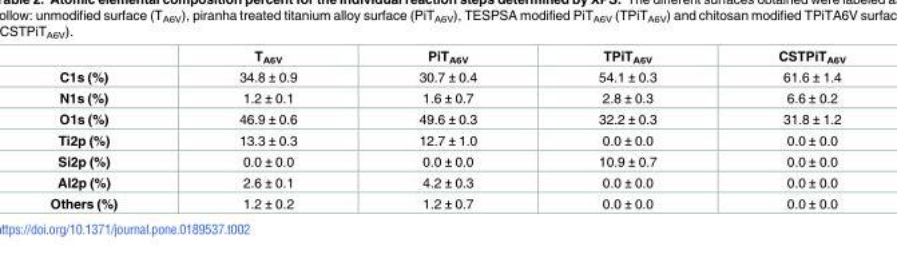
<table><thead><tr><td></td><td>T<sub>A6V</sub></td><td>PiT<sub>A6V</sub></td><td>TPiT<sub>A6V</sub></td><td>CSTPiT<sub>A6V</sub></td></tr></thead><tbody><tr><td>C1s (%)</td><td>34.8 ± 0.9</td><td>30.7 ± 0.4</td><td>54.1 ± 0.3</td><td>61.6 ± 1.4</td></tr><tr><td>N1s (%)</td><td>1.2 ± 0.1</td><td>1.6 ± 0.7</td><td>2.8 ± 0.3</td><td>6.6 ± 0.2</td></tr><tr><td>O1s (%)</td><td>46.9 ± 0.6</td><td>49.6 ± 0.3</td><td>32.2 ± 0.3</td><td>31.8 ± 1.2</td></tr><tr><td>Ti2p (%)</td><td>13.3 ± 0.3</td><td>12.7 ± 1.0</td><td>0.0 ± 0.0</td><td>0.0 ± 0.0</td></tr><tr><td>Si2p (%)</td><td>0.0 ± 0.0</td><td>0.0 ± 0.0</td><td>10.9 ± 0.7</td><td>0.0 ± 0.0</td></tr><tr><td>Al2p (%)</td><td>2.6 ± 0.1</td><td>4.2 ± 0.3</td><td>0.0 ± 0.0</td><td>0.0 ± 0.0</td></tr><tr><td>Others (%)</td><td>1.2 ± 0.2</td><td>1.2 ± 0.7</td><td>0.0 ± 0.0</td><td>0.0 ± 0.0</td></tr></tbody></table>